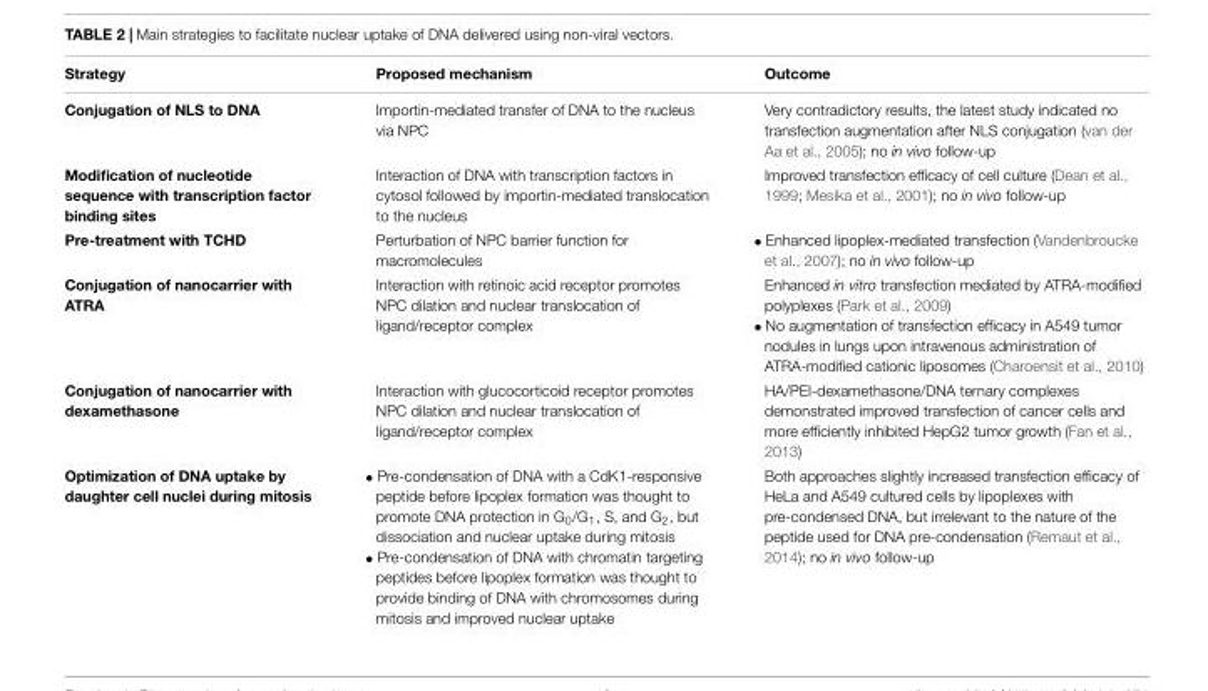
<table><thead><tr><td>Strategy</td><td>Proposed mechanism</td><td>Outcome</td></tr></thead><tbody><tr><td>Conjugation of NLS to DNA</td><td>Importin-mediated transfer of DNA to the nucleus via NPC</td><td>Very contradictory results, the latest study indicated no transfection augmentation after NLS conjugation (van der Aa et al., 2005); no in vivo follow-up</td></tr><tr><td>Modification of nucleotide sequence with transcription factor binding sites</td><td>Interaction of DNA with transcription factors in cytosol followed by importin-mediated translocation to the nucleus</td><td>Improved transfection efficacy of cell culture (Dean et al., 1999; Mesika et al., 2001); no in vivo follow-up</td></tr><tr><td>Pre-treatment with TCHD</td><td>Perturbation of NPC barrier function for macromolecules</td><td>• Enhanced lipoplex-mediated transfection (Vandenbroucke et al., 2007); no in vivo follow-up</td></tr><tr><td>Conjugation of nanocarrier with ATRA</td><td>Interaction with retinoic acid receptor promotes NPC dilation and nuclear translocation of ligand/receptor complex</td><td>Enhanced in vitro transfection mediated by ATRA-modified polyplexes (Park et al., 2009) • No augmentation of transfection efficacy in A549 tumor nodules in lungs upon intravenous administration of ATRA-modified cationic liposomes (Charoensit et al., 2010)</td></tr><tr><td>Conjugation of nanocarrier with dexamethasone</td><td>Interaction with glucocorticoid receptor promotes NPC dilation and nuclear translocation of ligand/receptor complex</td><td>HA/PEI-dexamethasone/DNA ternary complexes demonstrated improved transfection of cancer cells and more efficiently inhibited HepG2 tumor growth (Fan et al., 2013)</td></tr><tr><td>Optimization of DNA uptake by daughter cell nuclei during mitosis</td><td>• Pre-condensation of DNA with a CdK1-responsive peptide before lipoplex formation was thought to promote DNA protection in G<sub>0</sub>/G<sub>1</sub>, S, and G<sub>2</sub>, but dissociation and nuclear uptake during mitosis • Pre-condensation of DNA with chromatin targeting peptides before lipoplex formation was thought to provide binding of DNA with chromosomes during mitosis and improved nuclear uptake</td><td>Both approaches slightly increased transfection efficacy of HeLa and A549 cultured cells by lipoplexes with pre-condensed DNA, but irrelevant to the nature of the peptide used for DNA pre-condensation (Remaut et al., 2014); no in vivo follow-up</td></tr></tbody></table>